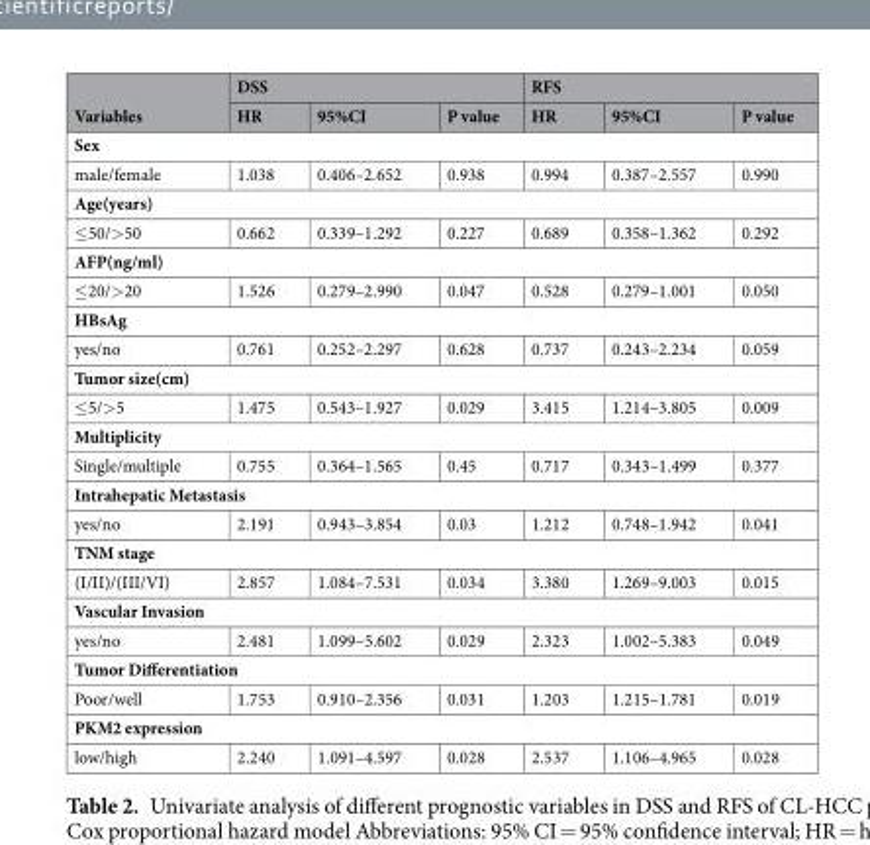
<table><thead><tr><td rowspan="2">Variables</td><td colspan="3">DSS</td><td colspan="3">RFS</td></tr><tr><td>HR</td><td>95%CI</td><td>P value</td><td>HR</td><td>95%CI</td><td>P value</td></tr></thead><tbody><tr><td colspan="7">Sex</td></tr><tr><td>male/female</td><td>1.038</td><td>0.406–2.652</td><td>0.938</td><td>0.994</td><td>0.387–2.557</td><td>0.990</td></tr><tr><td colspan="7">Age(years)</td></tr><tr><td>≤50/&gt;50</td><td>0.662</td><td>0.339–1.292</td><td>0.227</td><td>0.689</td><td>0.358–1.362</td><td>0.292</td></tr><tr><td colspan="7">AFP(ng/ml)</td></tr><tr><td>≤20/&gt;20</td><td>1.526</td><td>0.279–2.990</td><td>0.047</td><td>0.528</td><td>0.279–1.001</td><td>0.050</td></tr><tr><td colspan="7">HBsAg</td></tr><tr><td>yes/no</td><td>0.761</td><td>0.252–2.297</td><td>0.628</td><td>0.737</td><td>0.243–2.234</td><td>0.059</td></tr><tr><td colspan="7">Tumor size(cm)</td></tr><tr><td>≤5/&gt;5</td><td>1.475</td><td>0.543–1.927</td><td>0.029</td><td>3.415</td><td>1.214–3.805</td><td>0.009</td></tr><tr><td colspan="7">Multiplicity</td></tr><tr><td>Single/multiple</td><td>0.755</td><td>0.364–1.565</td><td>0.45</td><td>0.717</td><td>0.343–1.499</td><td>0.377</td></tr><tr><td colspan="7">Intrahepatic Metastasis</td></tr><tr><td>yes/no</td><td>2.191</td><td>0.943–3.854</td><td>0.03</td><td>1.212</td><td>0.748–1.942</td><td>0.041</td></tr><tr><td colspan="7">TNM stage</td></tr><tr><td>(I/II)/(III/VI)</td><td>2.857</td><td>1.084–7.531</td><td>0.034</td><td>3.380</td><td>1.269–9.003</td><td>0.015</td></tr><tr><td colspan="7">Vascular Invasion</td></tr><tr><td>yes/no</td><td>2.481</td><td>1.099–5.602</td><td>0.029</td><td>2.323</td><td>1.002–5.383</td><td>0.049</td></tr><tr><td colspan="7">Tumor Differentiation</td></tr><tr><td>Poor/well</td><td>1.753</td><td>0.910–2.356</td><td>0.031</td><td>1.203</td><td>1.215–1.781</td><td>0.019</td></tr><tr><td colspan="7">PKM2 expression</td></tr><tr><td>low/high</td><td>2.240</td><td>1.091–4.597</td><td>0.028</td><td>2.537</td><td>1.106–4.965</td><td>0.028</td></tr></tbody></table>